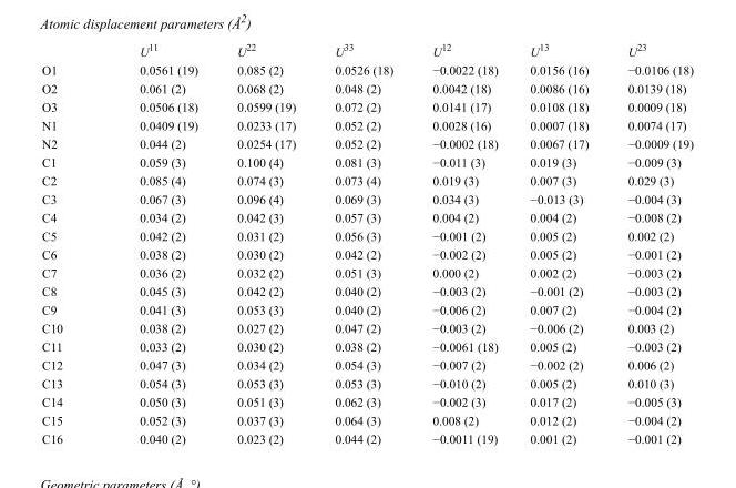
<table><thead><tr><td></td><td>U<sup>11</sup></td><td>U<sup>22</sup></td><td>U<sup>33</sup></td><td>U<sup>12</sup></td><td>U<sup>13</sup></td><td>U<sup>23</sup></td></tr></thead><tbody><tr><td>O1</td><td>0.0561 (19)</td><td>0.085 (2)</td><td>0.0526 (18)</td><td>−0.0022 (18)</td><td>0.0156 (16)</td><td>−0.0106 (18)</td></tr><tr><td>O2</td><td>0.061 (2)</td><td>0.068 (2)</td><td>0.048 (2)</td><td>0.0042 (18)</td><td>0.0086 (16)</td><td>0.0139 (18)</td></tr><tr><td>O3</td><td>0.0506 (18)</td><td>0.0599 (19)</td><td>0.072 (2)</td><td>0.0141 (17)</td><td>0.0108 (18)</td><td>0.0009 (18)</td></tr><tr><td>N1</td><td>0.0409 (19)</td><td>0.0233 (17)</td><td>0.052 (2)</td><td>0.0028 (16)</td><td>0.0007 (18)</td><td>0.0074 (17)</td></tr><tr><td>N2</td><td>0.044 (2)</td><td>0.0254 (17)</td><td>0.052 (2)</td><td>−0.0002 (18)</td><td>0.0067 (17)</td><td>−0.0009 (19)</td></tr><tr><td>C1</td><td>0.059 (3)</td><td>0.100 (4)</td><td>0.081 (3)</td><td>−0.011 (3)</td><td>0.019 (3)</td><td>−0.009 (3)</td></tr><tr><td>C2</td><td>0.085 (4)</td><td>0.074 (3)</td><td>0.073 (4)</td><td>0.019 (3)</td><td>0.007 (3)</td><td>0.029 (3)</td></tr><tr><td>C3</td><td>0.067 (3)</td><td>0.096 (4)</td><td>0.069 (3)</td><td>0.034 (3)</td><td>−0.013 (3)</td><td>−0.004 (3)</td></tr><tr><td>C4</td><td>0.034 (2)</td><td>0.042 (3)</td><td>0.057 (3)</td><td>0.004 (2)</td><td>0.004 (2)</td><td>−0.008 (2)</td></tr><tr><td>C5</td><td>0.042 (2)</td><td>0.031 (2)</td><td>0.056 (3)</td><td>−0.001 (2)</td><td>0.005 (2)</td><td>0.002 (2)</td></tr><tr><td>C6</td><td>0.038 (2)</td><td>0.030 (2)</td><td>0.042 (2)</td><td>−0.002 (2)</td><td>0.005 (2)</td><td>−0.001 (2)</td></tr><tr><td>C7</td><td>0.036 (2)</td><td>0.032 (2)</td><td>0.051 (3)</td><td>0.000 (2)</td><td>0.002 (2)</td><td>−0.003 (2)</td></tr><tr><td>C8</td><td>0.045 (3)</td><td>0.042 (2)</td><td>0.040 (2)</td><td>−0.003 (2)</td><td>−0.001 (2)</td><td>−0.003 (2)</td></tr><tr><td>C9</td><td>0.041 (3)</td><td>0.053 (3)</td><td>0.040 (2)</td><td>−0.006 (2)</td><td>0.007 (2)</td><td>−0.004 (2)</td></tr><tr><td>C10</td><td>0.038 (2)</td><td>0.027 (2)</td><td>0.047 (2)</td><td>−0.003 (2)</td><td>−0.006 (2)</td><td>0.003 (2)</td></tr><tr><td>C11</td><td>0.033 (2)</td><td>0.030 (2)</td><td>0.038 (2)</td><td>−0.0061 (18)</td><td>0.005 (2)</td><td>−0.003 (2)</td></tr><tr><td>C12</td><td>0.047 (3)</td><td>0.034 (2)</td><td>0.054 (3)</td><td>−0.007 (2)</td><td>−0.002 (2)</td><td>0.006 (2)</td></tr><tr><td>C13</td><td>0.054 (3)</td><td>0.053 (3)</td><td>0.053 (3)</td><td>−0.010 (2)</td><td>0.005 (2)</td><td>0.010 (3)</td></tr><tr><td>C14</td><td>0.050 (3)</td><td>0.051 (3)</td><td>0.062 (3)</td><td>−0.002 (3)</td><td>0.017 (2)</td><td>−0.005 (3)</td></tr><tr><td>C15</td><td>0.052 (3)</td><td>0.037 (3)</td><td>0.064 (3)</td><td>0.008 (2)</td><td>0.012 (2)</td><td>−0.004 (2)</td></tr><tr><td>C16</td><td>0.040 (2)</td><td>0.023 (2)</td><td>0.044 (2)</td><td>−0.0011 (19)</td><td>0.001 (2)</td><td>−0.001 (2)</td></tr></tbody></table>